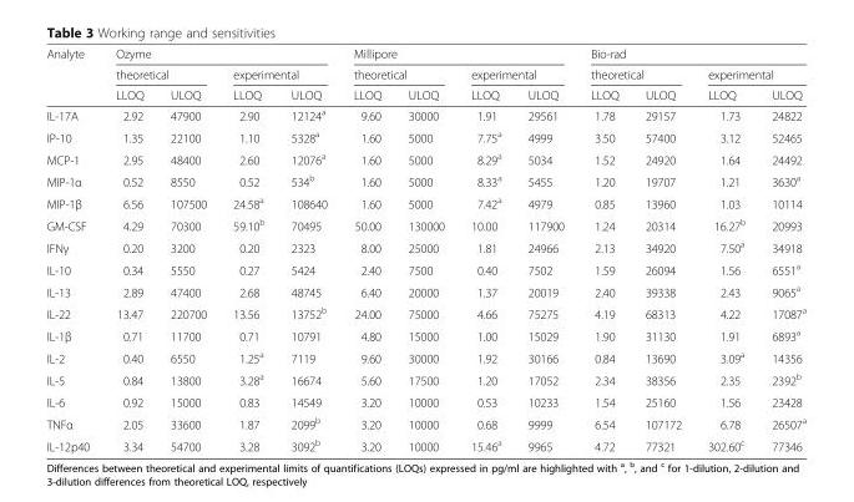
<table><thead><tr><td rowspan="3">Analyte</td><td colspan="4">Ozyme</td><td colspan="4">Millipore</td><td colspan="4">Bio-rad</td></tr><tr><td colspan="2">theoretical</td><td colspan="2">experimental</td><td colspan="2">theoretical</td><td colspan="2">experimental</td><td colspan="2">theoretical</td><td colspan="2">experimental</td></tr><tr><td>LLOQ</td><td>ULOQ</td><td>LLOQ</td><td>ULOQ</td><td>LLOQ</td><td>ULOQ</td><td>LLOQ</td><td>ULOQ</td><td>LLOQ</td><td>ULOQ</td><td>LLOQ</td><td>ULOQ</td></tr></thead><tbody><tr><td>IL-17A</td><td>2.92</td><td>47900</td><td>2.90</td><td>12124<sup>a</sup></td><td>9.60</td><td>30000</td><td>1.91</td><td>29561</td><td>1.78</td><td>29157</td><td>1.73</td><td>24822</td></tr><tr><td>IP-10</td><td>1.35</td><td>22100</td><td>1.10</td><td>5328<sup>a</sup></td><td>1.60</td><td>5000</td><td>7.75<sup>a</sup></td><td>4999</td><td>3.50</td><td>57400</td><td>3.12</td><td>52465</td></tr><tr><td>MCP-1</td><td>2.95</td><td>48400</td><td>2.60</td><td>12076<sup>a</sup></td><td>1.60</td><td>5000</td><td>8.29<sup>a</sup></td><td>5034</td><td>1.52</td><td>24920</td><td>1.64</td><td>24492</td></tr><tr><td>MIP-1α</td><td>0.52</td><td>8550</td><td>0.52</td><td>534<sup>b</sup></td><td>1.60</td><td>5000</td><td>8.33<sup>a</sup></td><td>5455</td><td>1.20</td><td>19707</td><td>1.21</td><td>3630<sup>a</sup></td></tr><tr><td>MIP-1β</td><td>6.56</td><td>107500</td><td>24.58<sup>a</sup></td><td>108640</td><td>1.60</td><td>5000</td><td>7.42<sup>a</sup></td><td>4979</td><td>0.85</td><td>13960</td><td>1.03</td><td>10114</td></tr><tr><td>GM-CSF</td><td>4.29</td><td>70300</td><td>59.10<sup>b</sup></td><td>70495</td><td>50.00</td><td>130000</td><td>10.00</td><td>117900</td><td>1.24</td><td>20314</td><td>16.27<sup>b</sup></td><td>20993</td></tr><tr><td>IFNγ</td><td>0.20</td><td>3200</td><td>0.20</td><td>2323</td><td>8.00</td><td>25000</td><td>1.81</td><td>24966</td><td>2.13</td><td>34920</td><td>7.50<sup>a</sup></td><td>34918</td></tr><tr><td>IL-10</td><td>0.34</td><td>5550</td><td>0.27</td><td>5424</td><td>2.40</td><td>7500</td><td>0.40</td><td>7502</td><td>1.59</td><td>26094</td><td>1.56</td><td>6551<sup>a</sup></td></tr><tr><td>IL-13</td><td>2.89</td><td>47400</td><td>2.68</td><td>48745</td><td>6.40</td><td>20000</td><td>1.37</td><td>20019</td><td>2.40</td><td>39338</td><td>2.43</td><td>9065<sup>a</sup></td></tr><tr><td>IL-22</td><td>13.47</td><td>220700</td><td>13.56</td><td>13752<sup>b</sup></td><td>24.00</td><td>75000</td><td>4.66</td><td>75275</td><td>4.19</td><td>68313</td><td>4.22</td><td>17087<sup>a</sup></td></tr><tr><td>IL-1β</td><td>0.71</td><td>11700</td><td>0.71</td><td>10791</td><td>4.80</td><td>15000</td><td>1.00</td><td>15029</td><td>1.90</td><td>31130</td><td>1.91</td><td>6893<sup>a</sup></td></tr><tr><td>IL-2</td><td>0.40</td><td>6550</td><td>1.25<sup>a</sup></td><td>7119</td><td>9.60</td><td>30000</td><td>1.92</td><td>30166</td><td>0.84</td><td>13690</td><td>3.09<sup>a</sup></td><td>14356</td></tr><tr><td>IL-5</td><td>0.84</td><td>13800</td><td>3.28<sup>a</sup></td><td>16674</td><td>5.60</td><td>17500</td><td>1.20</td><td>17052</td><td>2.34</td><td>38356</td><td>2.35</td><td>2392<sup>b</sup></td></tr><tr><td>IL-6</td><td>0.92</td><td>15000</td><td>0.83</td><td>14549</td><td>3.20</td><td>10000</td><td>0.53</td><td>10233</td><td>1.54</td><td>25160</td><td>1.56</td><td>23428</td></tr><tr><td>TNFα</td><td>2.05</td><td>33600</td><td>1.87</td><td>2099<sup>b</sup></td><td>3.20</td><td>10000</td><td>0.68</td><td>9999</td><td>6.54</td><td>107172</td><td>6.78</td><td>26507<sup>a</sup></td></tr><tr><td>IL-12p40</td><td>3.34</td><td>54700</td><td>3.28</td><td>3092<sup>b</sup></td><td>3.20</td><td>10000</td><td>15.46<sup>a</sup></td><td>9965</td><td>4.72</td><td>77321</td><td>302.60<sup>c</sup></td><td>77346</td></tr></tbody></table>